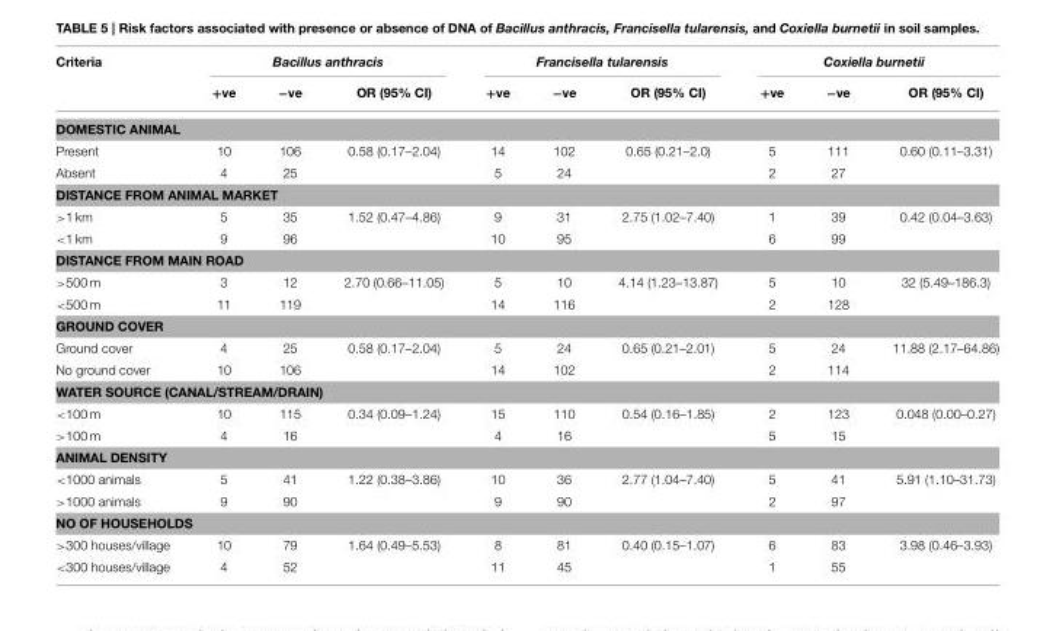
<table><thead><tr><td rowspan="2">Criteria</td><td colspan="3">Bacillus anthracis</td><td colspan="3">Francisella tularensis</td><td colspan="3">Coxiella burnetii</td></tr><tr><td>+ve</td><td>−ve</td><td>OR (95% CI)</td><td>+ve</td><td>−ve</td><td>OR (95% CI)</td><td>+ve</td><td>−ve</td><td>OR (95% CI)</td></tr></thead><tbody><tr><td colspan="10">DOMESTIC ANIMAL</td></tr><tr><td>Present</td><td>10</td><td>106</td><td>0.58 (0.17–2.04)</td><td>14</td><td>102</td><td>0.65 (0.21–2.0)</td><td>5</td><td>111</td><td>0.60 (0.11–3.31)</td></tr><tr><td>Absent</td><td>4</td><td>25</td><td></td><td>5</td><td>24</td><td></td><td>2</td><td>27</td><td></td></tr><tr><td colspan="10">DISTANCE FROM ANIMAL MARKET</td></tr><tr><td>&gt;1 km</td><td>5</td><td>35</td><td>1.52 (0.47–4.86)</td><td>9</td><td>31</td><td>2.75 (1.02–7.40)</td><td>1</td><td>39</td><td>0.42 (0.04–3.63)</td></tr><tr><td>&lt;1 km</td><td>9</td><td>96</td><td></td><td>10</td><td>95</td><td></td><td>6</td><td>99</td><td></td></tr><tr><td colspan="10">DISTANCE FROM MAIN ROAD</td></tr><tr><td>&gt;500 m</td><td>3</td><td>12</td><td>2.70 (0.66–11.05)</td><td>5</td><td>10</td><td>4.14 (1.23–13.87)</td><td>5</td><td>10</td><td>32 (5.49–186.3)</td></tr><tr><td>&lt;500 m</td><td>11</td><td>119</td><td></td><td>14</td><td>116</td><td></td><td>2</td><td>128</td><td></td></tr><tr><td colspan="10">GROUND COVER</td></tr><tr><td>Ground cover</td><td>4</td><td>25</td><td>0.58 (0.17–2.04)</td><td>5</td><td>24</td><td>0.65 (0.21–2.01)</td><td>5</td><td>24</td><td>11.88 (2.17–64.86)</td></tr><tr><td>No ground cover</td><td>10</td><td>106</td><td></td><td>14</td><td>102</td><td></td><td>2</td><td>114</td><td></td></tr><tr><td colspan="10">WATER SOURCE (CANAL/STREAM/DRAIN)</td></tr><tr><td>&lt;100 m</td><td>10</td><td>115</td><td>0.34 (0.09–1.24)</td><td>15</td><td>110</td><td>0.54 (0.16–1.85)</td><td>2</td><td>123</td><td>0.048 (0.00–0.27)</td></tr><tr><td>&gt;100 m</td><td>4</td><td>16</td><td></td><td>4</td><td>16</td><td></td><td>5</td><td>15</td><td></td></tr><tr><td colspan="10">ANIMAL DENSITY</td></tr><tr><td>&lt;1000 animals</td><td>5</td><td>41</td><td>1.22 (0.38–3.86)</td><td>10</td><td>36</td><td>2.77 (1.04–7.40)</td><td>5</td><td>41</td><td>5.91 (1.10–31.73)</td></tr><tr><td>&gt;1000 animals</td><td>9</td><td>90</td><td></td><td>9</td><td>90</td><td></td><td>2</td><td>97</td><td></td></tr><tr><td colspan="10">NO OF HOUSEHOLDS</td></tr><tr><td>&gt;300 houses/village</td><td>10</td><td>79</td><td>1.64 (0.49–5.53)</td><td>8</td><td>81</td><td>0.40 (0.15–1.07)</td><td>6</td><td>83</td><td>3.98 (0.46–3.93)</td></tr><tr><td>&lt;300 houses/village</td><td>4</td><td>52</td><td></td><td>11</td><td>45</td><td></td><td>1</td><td>55</td><td></td></tr></tbody></table>